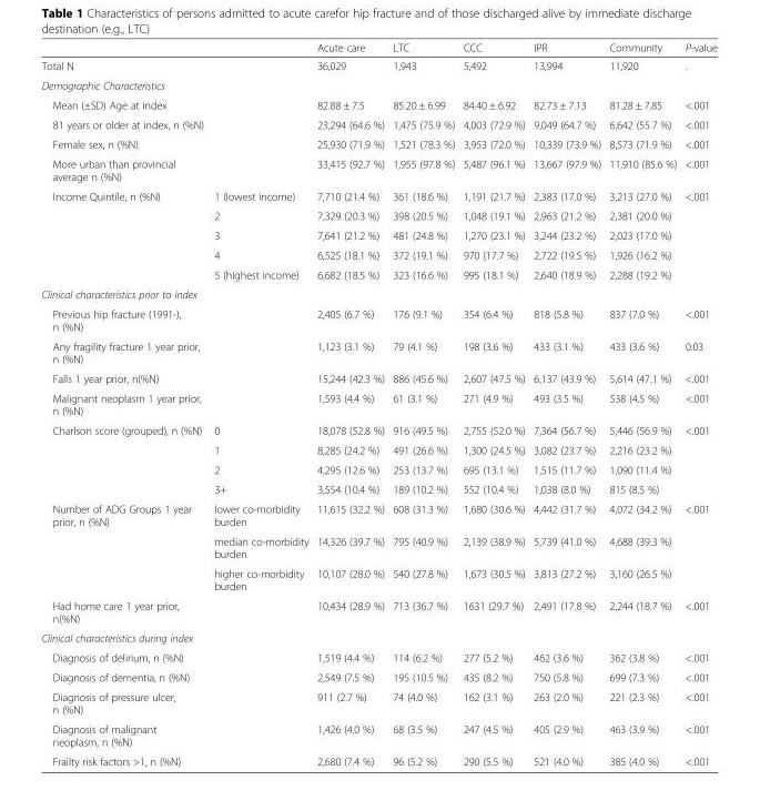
<table><thead><tr><td></td><td></td><td>Acute care</td><td>LTC</td><td>CCC</td><td>IPR</td><td>Community</td><td>P-value</td></tr></thead><tbody><tr><td>Total N</td><td></td><td>36,029</td><td>1,943</td><td>5,492</td><td>13,994</td><td>11,920</td><td>.</td></tr><tr><td colspan="8">Demographic Characteristics</td></tr><tr><td>Mean (±SD) Age at index</td><td></td><td>82.88 ± 7.5</td><td>85.20 ± 6.99</td><td>84.40 ± 6.92</td><td>82.73 ± 7.13</td><td>81.28 ± 7.85</td><td>&lt;.001</td></tr><tr><td>81 years or older at index, n (%N)</td><td></td><td>23,294 (64.6 %)</td><td>1,475 (75.9 %)</td><td>4,003 (72.9 %)</td><td>9,049 (64.7 %)</td><td>6,642 (55.7 %)</td><td>&lt;.001</td></tr><tr><td>Female sex, n (%N)</td><td></td><td>25,930 (71.9 %)</td><td>1,521 (78.3 %)</td><td>3,953 (72.0 %)</td><td>10,339 (73.9 %)</td><td>8,573 (71.9 %)</td><td>&lt;.001</td></tr><tr><td>More urban than provincial average n (%N)</td><td></td><td>33,415 (92.7 %)</td><td>1,955 (97.8 %)</td><td>5,487 (96.1 %)</td><td>13,667 (97.9 %)</td><td>11,910 (85.6 %)</td><td>&lt;.001</td></tr><tr><td rowspan="5">Income Quintile, n (%N)</td><td>1 (lowest income)</td><td>7,710 (21.4 %)</td><td>361 (18.6 %)</td><td>1,191 (21.7 %)</td><td>2,383 (17.0 %)</td><td>3,213 (27.0 %)</td><td>&lt;.001</td></tr><tr><td>2</td><td>7,329 (20.3 %)</td><td>398 (20.5 %)</td><td>1,048 (19.1 %)</td><td>2,963 (21.2 %)</td><td>2,381 (20.0 %)</td><td></td></tr><tr><td>3</td><td>7,641 (21.2 %)</td><td>481 (24.8 %)</td><td>1,270 (23.1 %)</td><td>3,244 (23.2 %)</td><td>2,023 (17.0 %)</td><td></td></tr><tr><td>4</td><td>6,525 (18.1 %)</td><td>372 (19.1 %)</td><td>970 (17.7 %)</td><td>2,722 (19.5 %)</td><td>1,926 (16.2 %)</td><td></td></tr><tr><td>5 (highest income)</td><td>6,682 (18.5 %)</td><td>323 (16.6 %)</td><td>995 (18.1 %)</td><td>2,640 (18.9 %)</td><td>2,288 (19.2 %)</td><td></td></tr><tr><td colspan="8">Clinical characteristics prior to index</td></tr><tr><td>Previous hip fracture (1991-), n (%N)</td><td></td><td>2,405 (6.7 %)</td><td>176 (9.1 %)</td><td>354 (6.4 %)</td><td>818 (5.8 %)</td><td>837 (7.0 %)</td><td>&lt;.001</td></tr><tr><td>Any fragility fracture 1 year prior, n (%N)</td><td></td><td>1,123 (3.1 %)</td><td>79 (4.1 %)</td><td>198 (3.6 %)</td><td>433 (3.1 %)</td><td>433 (3.6 %)</td><td>0.03</td></tr><tr><td>Falls 1 year prior, n(%N)</td><td></td><td>15,244 (42.3 %)</td><td>886 (45.6 %)</td><td>2,607 (47.5 %)</td><td>6,137 (43.9 %)</td><td>5,614 (47.1 %)</td><td>&lt;.001</td></tr><tr><td>Malignant neoplasm 1 year prior, n (%N)</td><td></td><td>1,593 (4.4 %)</td><td>61 (3.1 %)</td><td>271 (4.9 %)</td><td>493 (3.5 %)</td><td>538 (4.5 %)</td><td>&lt;.001</td></tr><tr><td rowspan="4">Charlson score (grouped), n (%N)</td><td>0</td><td>18,078 (52.8 %)</td><td>916 (49.5 %)</td><td>2,755 (52.0 %)</td><td>7,364 (56.7 %)</td><td>5,446 (56.9 %)</td><td>&lt;.001</td></tr><tr><td>1</td><td>8,285 (24.2 %)</td><td>491 (26.6 %)</td><td>1,300 (24.5 %)</td><td>3,082 (23.7 %)</td><td>2,216 (23.2 %)</td><td></td></tr><tr><td>2</td><td>4,295 (12.6 %)</td><td>253 (13.7 %)</td><td>695 (13.1 %)</td><td>1,515 (11.7 %)</td><td>1,090 (11.4 %)</td><td></td></tr><tr><td>3+</td><td>3,554 (10.4 %)</td><td>189 (10.2 %)</td><td>552 (10.4 %)</td><td>1,038 (8.0 %)</td><td>815 (8.5 %)</td><td></td></tr><tr><td rowspan="3">Number of ADG Groups 1 year prior, n (%N)</td><td>lower co-morbidity burden</td><td>11,615 (32.2 %)</td><td>608 (31.3 %)</td><td>1,680 (30.6 %)</td><td>4,442 (31.7 %)</td><td>4,072 (34.2 %)</td><td>&lt;.001</td></tr><tr><td>median co-morbidity burden</td><td>14,326 (39.7 %)</td><td>795 (40.9 %)</td><td>2,139 (38.9 %)</td><td>5,739 (41.0 %)</td><td>4,688 (39.3 %)</td><td></td></tr><tr><td>higher co-morbidity burden</td><td>10,107 (28.0 %)</td><td>540 (27.8 %)</td><td>1,673 (30.5 %)</td><td>3,813 (27.2 %)</td><td>3,160 (26.5 %)</td><td></td></tr><tr><td>Had home care 1 year prior, n(%N)</td><td></td><td>10,434 (28.9 %)</td><td>713 (36.7 %)</td><td>1631 (29.7 %)</td><td>2,491 (17.8 %)</td><td>2,244 (18.7 %)</td><td>&lt;.001</td></tr><tr><td colspan="8">Clinical characteristics during index</td></tr><tr><td>Diagnosis of delirium, n (%N)</td><td></td><td>1,519 (4.4 %)</td><td>114 (6.2 %)</td><td>277 (5.2 %)</td><td>462 (3.6 %)</td><td>362 (3.8 %)</td><td>&lt;.001</td></tr><tr><td>Diagnosis of dementia, n (%N)</td><td></td><td>2,549 (7.5 %)</td><td>195 (10.5 %)</td><td>435 (8.2 %)</td><td>750 (5.8 %)</td><td>699 (7.3 %)</td><td>&lt;.001</td></tr><tr><td>Diagnosis of pressure ulcer, n (%N)</td><td></td><td>911 (2.7 %)</td><td>74 (4.0 %)</td><td>162 (3.1 %)</td><td>263 (2.0 %)</td><td>221 (2.3 %)</td><td>&lt;.001</td></tr><tr><td>Diagnosis of malignant neoplasm, n (%N)</td><td></td><td>1,426 (4.0 %)</td><td>68 (3.5 %)</td><td>247 (4.5 %)</td><td>405 (2.9 %)</td><td>463 (3.9 %)</td><td>&lt;.001</td></tr><tr><td>Frailty risk factors &gt;1, n (%N)</td><td></td><td>2,680 (7.4 %)</td><td>96 (5.2 %)</td><td>290 (5.5 %)</td><td>521 (4.0 %)</td><td>385 (4.0 %)</td><td>&lt;.001</td></tr></tbody></table>